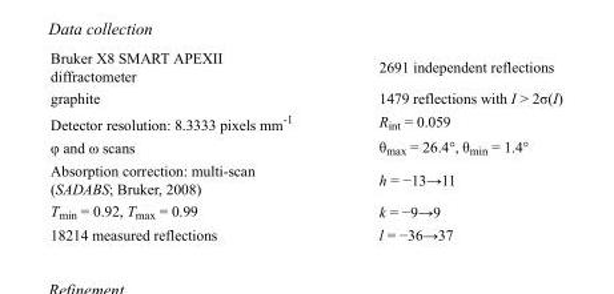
<table><tbody><tr><td>Bruker X8 SMART APEXII diffractometer</td><td>2691 independent reflections</td></tr><tr><td>graphite</td><td>1479 reflections with I &gt; 2σ(I)</td></tr><tr><td>Detector resolution: 8.3333 pixels mm<sup>-1</sup></td><td>R<sub>int</sub> = 0.059</td></tr><tr><td>φ and ω scans</td><td>θ<sub>max</sub> = 26.4°, θ<sub>min</sub> = 1.4°</td></tr><tr><td>Absorption correction: multi-scan (SADABS; Bruker, 2008)</td><td>h = −13→11</td></tr><tr><td>T<sub>min</sub> = 0.92, T<sub>max</sub> = 0.99</td><td>k = −9→9</td></tr><tr><td>18214 measured reflections</td><td>l = −36→37</td></tr></tbody></table>